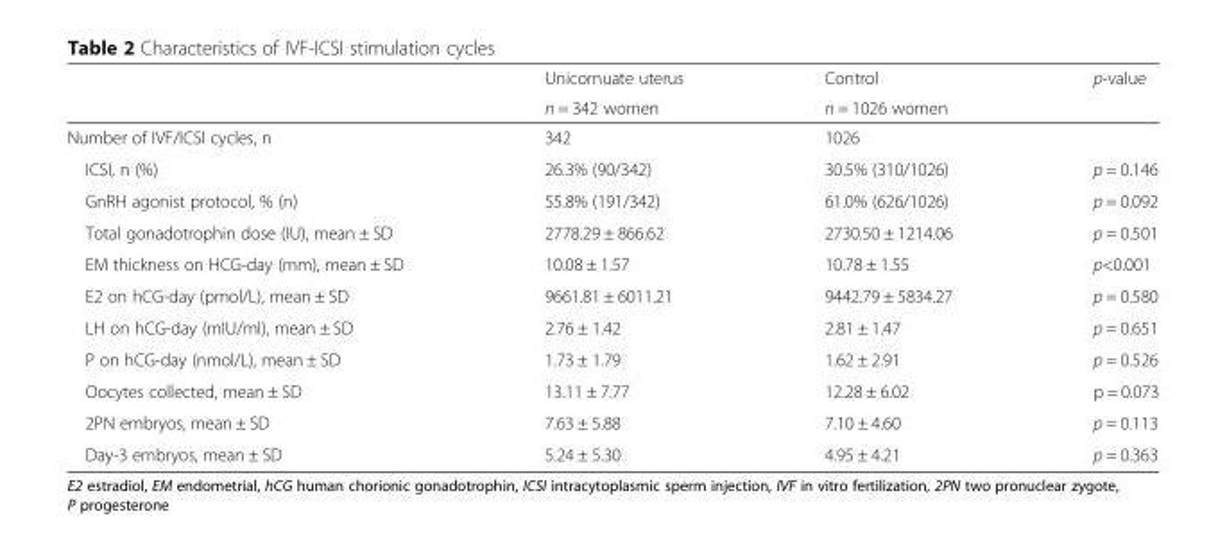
<table><thead><tr><td rowspan="2"></td><td rowspan="2">Unicornuate uterus n = 342 women</td><td rowspan="2">Control n = 1026 women</td><td rowspan="2">p-value</td></tr><tr></tr></thead><tbody><tr><td>Number of IVF/ICSI cycles, n</td><td>342</td><td>1026</td><td></td></tr><tr><td>ICSI, n (%)</td><td>26.3% (90/342)</td><td>30.5% (310/1026)</td><td>p = 0.146</td></tr><tr><td>GnRH agonist protocol, % (n)</td><td>55.8% (191/342)</td><td>61.0% (626/1026)</td><td>p = 0.092</td></tr><tr><td>Total gonadotrophin dose (IU), mean ± SD</td><td>2778.29 ± 866.62</td><td>2730.50 ± 1214.06</td><td>p = 0.501</td></tr><tr><td>EM thickness on HCG-day (mm), mean ± SD</td><td>10.08 ± 1.57</td><td>10.78 ± 1.55</td><td>p&lt;0.001</td></tr><tr><td>E2 on hCG-day (pmol/L), mean ± SD</td><td>9661.81 ± 6011.21</td><td>9442.79 ± 5834.27</td><td>p = 0.580</td></tr><tr><td>LH on hCG-day (mIU/ml), mean ± SD</td><td>2.76 ± 1.42</td><td>2.81 ± 1.47</td><td>p = 0.651</td></tr><tr><td>P on hCG-day (nmol/L), mean ± SD</td><td>1.73 ± 1.79</td><td>1.62 ± 2.91</td><td>p = 0.526</td></tr><tr><td>Oocytes collected, mean ± SD</td><td>13.11 ± 7.77</td><td>12.28 ± 6.02</td><td>p = 0.073</td></tr><tr><td>2PN embryos, mean ± SD</td><td>7.63 ± 5.88</td><td>7.10 ± 4.60</td><td>p = 0.113</td></tr><tr><td>Day-3 embryos, mean ± SD</td><td>5.24 ± 5.30</td><td>4.95 ± 4.21</td><td>p = 0.363</td></tr></tbody></table>